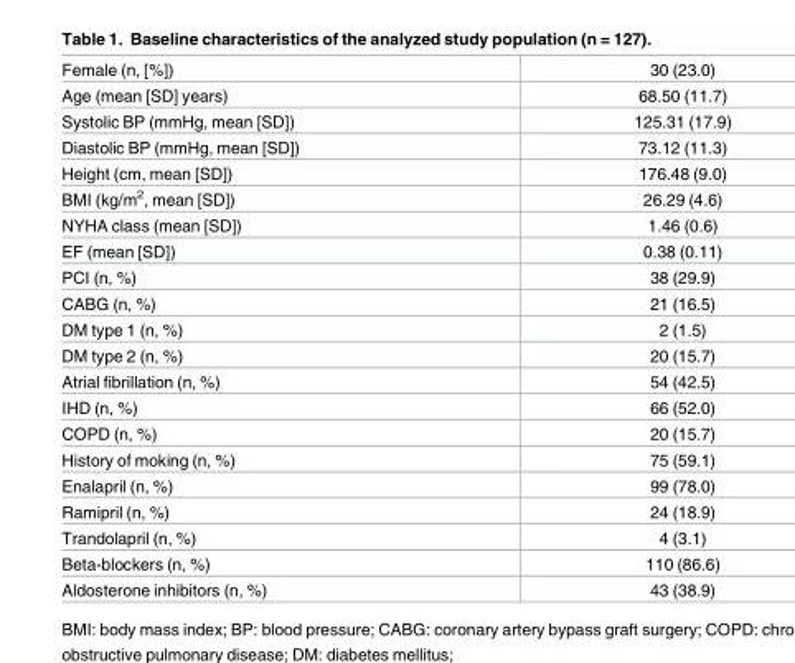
<table><tbody><tr><td>Female (n, [%])</td><td>30 (23.0)</td></tr><tr><td>Age (mean [SD] years)</td><td>68.50 (11.7)</td></tr><tr><td>Systolic BP (mmHg, mean [SD])</td><td>125.31 (17.9)</td></tr><tr><td>Diastolic BP (mmHg, mean [SD])</td><td>73.12 (11.3)</td></tr><tr><td>Height (cm, mean [SD])</td><td>176.48 (9.0)</td></tr><tr><td>BMI (kg/m<sup>2</sup>, mean [SD])</td><td>26.29 (4.6)</td></tr><tr><td>NYHA class (mean [SD])</td><td>1.46 (0.6)</td></tr><tr><td>EF (mean [SD])</td><td>0.38 (0.11)</td></tr><tr><td>PCI (n, %)</td><td>38 (29.9)</td></tr><tr><td>CABG (n, %)</td><td>21 (16.5)</td></tr><tr><td>DM type 1 (n, %)</td><td>2 (1.5)</td></tr><tr><td>DM type 2 (n, %)</td><td>20 (15.7)</td></tr><tr><td>Atrial fibrillation (n, %)</td><td>54 (42.5)</td></tr><tr><td>IHD (n, %)</td><td>66 (52.0)</td></tr><tr><td>COPD (n, %)</td><td>20 (15.7)</td></tr><tr><td>History of moking (n, %)</td><td>75 (59.1)</td></tr><tr><td>Enalapril (n, %)</td><td>99 (78.0)</td></tr><tr><td>Ramipril (n, %)</td><td>24 (18.9)</td></tr><tr><td>Trandolapril (n, %)</td><td>4 (3.1)</td></tr><tr><td>Beta-blockers (n, %)</td><td>110 (86.6)</td></tr><tr><td>Aldosterone inhibitors (n, %)</td><td>43 (38.9)</td></tr></tbody></table>